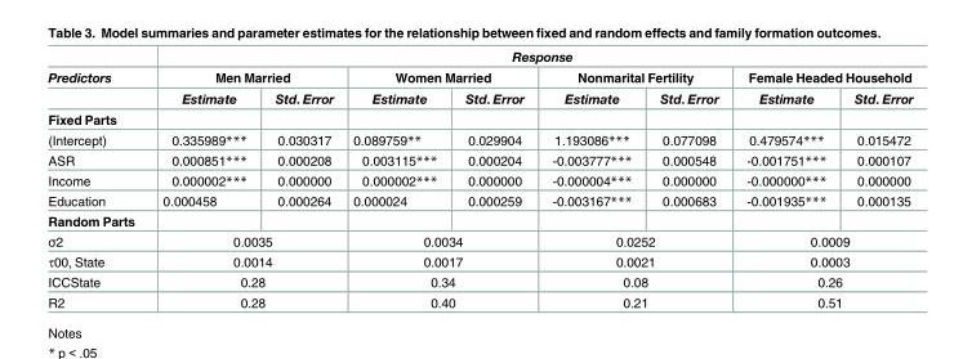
<table><thead><tr><td rowspan="3">Predictors</td><td colspan="8">Response</td></tr><tr><td colspan="2">Men Married</td><td colspan="2">Women Married</td><td colspan="2">Nonmarital Fertility</td><td colspan="2">Female Headed Household</td></tr><tr><td>Estimate</td><td>Std. Error</td><td>Estimate</td><td>Std. Error</td><td>Estimate</td><td>Std. Error</td><td>Estimate</td><td>Std. Error</td></tr></thead><tbody><tr><td colspan="9">Fixed Parts</td></tr><tr><td>(Intercept)</td><td>0.335989***</td><td>0.030317</td><td>0.089759**</td><td>0.029904</td><td>1.193086***</td><td>0.077098</td><td>0.479574***</td><td>0.015472</td></tr><tr><td>ASR</td><td>0.000851***</td><td>0.000208</td><td>0.003115***</td><td>0.000204</td><td>-0.003777***</td><td>0.000548</td><td>-0.001751***</td><td>0.000107</td></tr><tr><td>Income</td><td>0.000002***</td><td>0.000000</td><td>0.000002***</td><td>0.000000</td><td>-0.000004***</td><td>0.000000</td><td>-0.000000***</td><td>0.000000</td></tr><tr><td>Education</td><td>0.000458</td><td>0.000264</td><td>0.000024</td><td>0.000259</td><td>-0.003167***</td><td>0.000683</td><td>-0.001935***</td><td>0.000135</td></tr><tr><td colspan="9">Random Parts</td></tr><tr><td>σ2</td><td colspan="2">0.0035</td><td colspan="2">0.0034</td><td colspan="2">0.0252</td><td colspan="2">0.0009</td></tr><tr><td>τ00, State</td><td colspan="2">0.0014</td><td colspan="2">0.0017</td><td colspan="2">0.0021</td><td colspan="2">0.0003</td></tr><tr><td>ICCState</td><td colspan="2">0.28</td><td colspan="2">0.34</td><td colspan="2">0.08</td><td colspan="2">0.26</td></tr><tr><td>R2</td><td colspan="2">0.28</td><td colspan="2">0.40</td><td colspan="2">0.21</td><td colspan="2">0.51</td></tr></tbody></table>